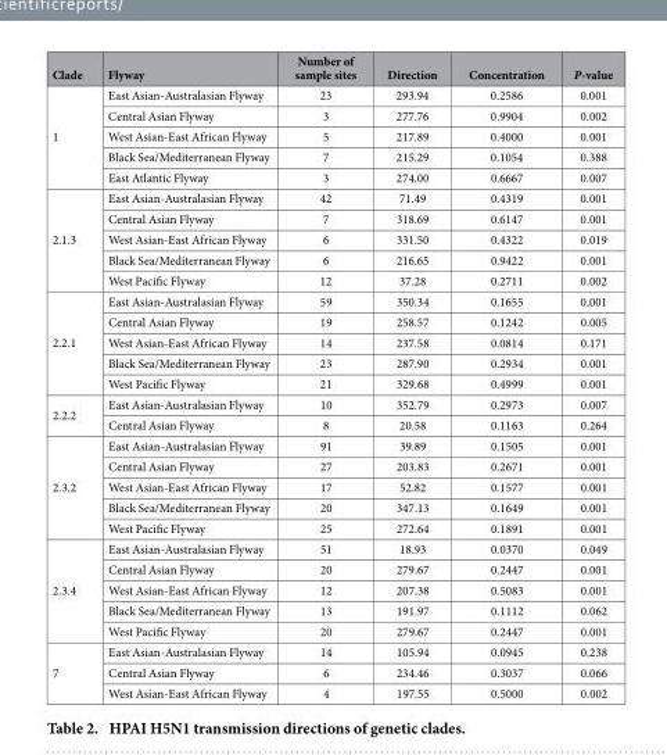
<table><thead><tr><td>Clade</td><td>Flyway</td><td>Number of sample sites</td><td>Direction</td><td>Concentration</td><td>P-value</td></tr></thead><tbody><tr><td rowspan="5">1</td><td>East Asian-Australasian Flyway</td><td>23</td><td>293.94</td><td>0.2586</td><td>0.001</td></tr><tr><td>Central Asian Flyway</td><td>3</td><td>277.76</td><td>0.9904</td><td>0.002</td></tr><tr><td>West Asian-East African Flyway</td><td>5</td><td>217.89</td><td>0.4000</td><td>0.001</td></tr><tr><td>Black Sea/Mediterranean Flyway</td><td>7</td><td>215.29</td><td>0.1054</td><td>0.388</td></tr><tr><td>East Atlantic Flyway</td><td>3</td><td>274.00</td><td>0.6667</td><td>0.007</td></tr><tr><td rowspan="5">2.1.3</td><td>East Asian-Australasian Flyway</td><td>42</td><td>71.49</td><td>0.4319</td><td>0.001</td></tr><tr><td>Central Asian Flyway</td><td>7</td><td>318.69</td><td>0.6147</td><td>0.001</td></tr><tr><td>West Asian-East African Flyway</td><td>6</td><td>331.50</td><td>0.4322</td><td>0.019</td></tr><tr><td>Black Sea/Mediterranean Flyway</td><td>6</td><td>216.65</td><td>0.9422</td><td>0.001</td></tr><tr><td>West Pacific Flyway</td><td>12</td><td>37.28</td><td>0.2711</td><td>0.002</td></tr><tr><td rowspan="5">2.2.1</td><td>East Asian-Australasian Flyway</td><td>59</td><td>350.34</td><td>0.1655</td><td>0.001</td></tr><tr><td>Central Asian Flyway</td><td>19</td><td>258.57</td><td>0.1242</td><td>0.005</td></tr><tr><td>West Asian-East African Flyway</td><td>14</td><td>237.58</td><td>0.0814</td><td>0.171</td></tr><tr><td>Black Sea/Mediterranean Flyway</td><td>23</td><td>287.90</td><td>0.2934</td><td>0.001</td></tr><tr><td>West Pacific Flyway</td><td>21</td><td>329.68</td><td>0.4999</td><td>0.001</td></tr><tr><td rowspan="2">2.2.2</td><td>East Asian-Australasian Flyway</td><td>10</td><td>352.79</td><td>0.2973</td><td>0.007</td></tr><tr><td>Central Asian Flyway</td><td>8</td><td>20.58</td><td>0.1163</td><td>0.264</td></tr><tr><td rowspan="5">2.3.2</td><td>East Asian-Australasian Flyway</td><td>91</td><td>39.89</td><td>0.1505</td><td>0.001</td></tr><tr><td>Central Asian Flyway</td><td>27</td><td>203.83</td><td>0.2671</td><td>0.001</td></tr><tr><td>West Asian-East African Flyway</td><td>17</td><td>52.82</td><td>0.1577</td><td>0.001</td></tr><tr><td>Black Sea/Mediterranean Flyway</td><td>20</td><td>347.13</td><td>0.1649</td><td>0.001</td></tr><tr><td>West Pacific Flyway</td><td>25</td><td>272.64</td><td>0.1891</td><td>0.001</td></tr><tr><td rowspan="5">2.3.4</td><td>East Asian-Australasian Flyway</td><td>51</td><td>18.93</td><td>0.0370</td><td>0.049</td></tr><tr><td>Central Asian Flyway</td><td>20</td><td>279.67</td><td>0.2447</td><td>0.001</td></tr><tr><td>West Asian-East African Flyway</td><td>12</td><td>207.38</td><td>0.5083</td><td>0.001</td></tr><tr><td>Black Sea/Mediterranean Flyway</td><td>13</td><td>191.97</td><td>0.1112</td><td>0.062</td></tr><tr><td>West Pacific Flyway</td><td>20</td><td>279.67</td><td>0.2447</td><td>0.001</td></tr><tr><td rowspan="3">7</td><td>East Asian-Australasian Flyway</td><td>14</td><td>105.94</td><td>0.0945</td><td>0.238</td></tr><tr><td>Central Asian Flyway</td><td>6</td><td>234.46</td><td>0.3037</td><td>0.066</td></tr><tr><td>West Asian-East African Flyway</td><td>4</td><td>197.55</td><td>0.5000</td><td>0.002</td></tr></tbody></table>